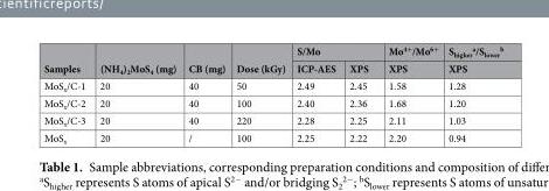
<table><thead><tr><td rowspan="2">Samples</td><td rowspan="2">(NH<sub>4</sub>)<sub>2</sub>MoS<sub>4</sub> (mg)</td><td rowspan="2">CB (mg)</td><td rowspan="2">Dose (kGy)</td><td colspan="2">S/Mo</td><td rowspan="2">Mo<sup>4+</sup>/Mo<sup>6+</sup> XPS</td><td rowspan="2">S<sub>higher</sub> <sup>a</sup>/S<sub>lower</sub> <sup>b</sup> XPS</td></tr><tr><td>ICP-AES</td><td>XPS</td></tr></thead><tbody><tr><td>MoS<sub>x</sub>/C-1</td><td>20</td><td>40</td><td>50</td><td>2.49</td><td>2.45</td><td>1.58</td><td>1.28</td></tr><tr><td>MoS<sub>x</sub>/C-2</td><td>20</td><td>40</td><td>100</td><td>2.40</td><td>2.36</td><td>1.68</td><td>1.20</td></tr><tr><td>MoS<sub>x</sub>/C-3</td><td>20</td><td>40</td><td>220</td><td>2.28</td><td>2.25</td><td>2.11</td><td>1.03</td></tr><tr><td>MoS<sub>x</sub></td><td>20</td><td>/</td><td>100</td><td>2.25</td><td>2.22</td><td>2.20</td><td>0.94</td></tr></tbody></table>